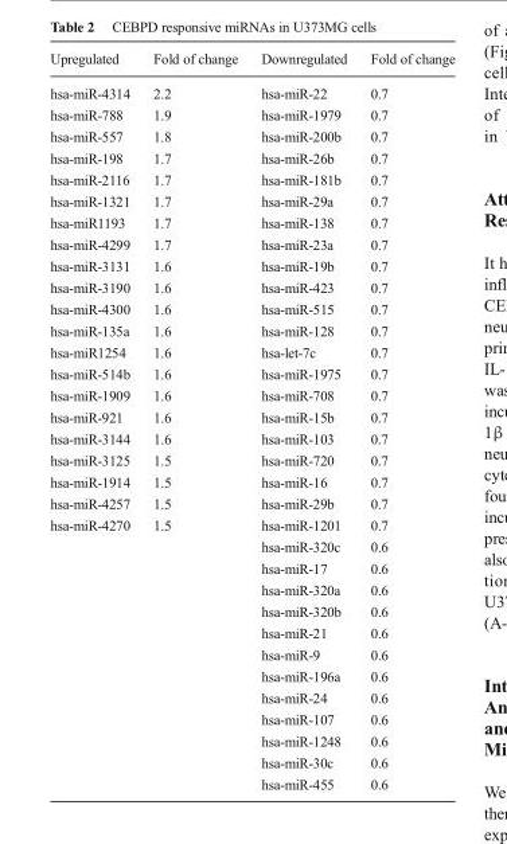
<table><thead><tr><td>Upregulated</td><td>Fold of change</td><td>Downregulated</td><td>Fold of change</td></tr></thead><tbody><tr><td>hsa-miR-4314</td><td>2.2</td><td>hsa-miR-22</td><td>0.7</td></tr><tr><td>hsa-miR-788</td><td>1.9</td><td>hsa-miR-1979</td><td>0.7</td></tr><tr><td>hsa-miR-557</td><td>1.8</td><td>hsa-miR-200b</td><td>0.7</td></tr><tr><td>hsa-miR-198</td><td>1.7</td><td>hsa-miR-26b</td><td>0.7</td></tr><tr><td>hsa-miR-2116</td><td>1.7</td><td>hsa-miR-181b</td><td>0.7</td></tr><tr><td>hsa-miR-1321</td><td>1.7</td><td>hsa-miR-29a</td><td>0.7</td></tr><tr><td>hsa-miR1193</td><td>1.7</td><td>hsa-miR-138</td><td>0.7</td></tr><tr><td>hsa-miR-4299</td><td>1.7</td><td>hsa-miR-23a</td><td>0.7</td></tr><tr><td>hsa-miR-3131</td><td>1.6</td><td>hsa-miR-19b</td><td>0.7</td></tr><tr><td>hsa-miR-3190</td><td>1.6</td><td>hsa-miR-423</td><td>0.7</td></tr><tr><td>hsa-miR-4300</td><td>1.6</td><td>hsa-miR-515</td><td>0.7</td></tr><tr><td>hsa-miR-135a</td><td>1.6</td><td>hsa-miR-128</td><td>0.7</td></tr><tr><td>hsa-miR1254</td><td>1.6</td><td>hsa-let-7c</td><td>0.7</td></tr><tr><td>hsa-miR-514b</td><td>1.6</td><td>hsa-miR-1975</td><td>0.7</td></tr><tr><td>hsa-miR-1909</td><td>1.6</td><td>hsa-miR-708</td><td>0.7</td></tr><tr><td>hsa-miR-921</td><td>1.6</td><td>hsa-miR-15b</td><td>0.7</td></tr><tr><td>hsa-miR-3144</td><td>1.6</td><td>hsa-miR-103</td><td>0.7</td></tr><tr><td>hsa-miR-3125</td><td>1.5</td><td>hsa-miR-720</td><td>0.7</td></tr><tr><td>hsa-miR-1914</td><td>1.5</td><td>hsa-miR-16</td><td>0.7</td></tr><tr><td>hsa-miR-4257</td><td>1.5</td><td>hsa-miR-29b</td><td>0.7</td></tr><tr><td rowspan="13">hsa-miR-4270</td><td>1.5</td><td>hsa-miR-1201</td><td>0.7</td></tr><tr><td></td><td>hsa-miR-320c</td><td>0.6</td></tr><tr><td></td><td>hsa-miR-17</td><td>0.6</td></tr><tr><td></td><td>hsa-miR-320a</td><td>0.6</td></tr><tr><td></td><td>hsa-miR-320b</td><td>0.6</td></tr><tr><td></td><td>hsa-miR-21</td><td>0.6</td></tr><tr><td></td><td>hsa-miR-9</td><td>0.6</td></tr><tr><td></td><td>hsa-miR-196a</td><td>0.6</td></tr><tr><td></td><td>hsa-miR-24</td><td>0.6</td></tr><tr><td></td><td>hsa-miR-107</td><td>0.6</td></tr><tr><td></td><td>hsa-miR-1248</td><td>0.6</td></tr><tr><td></td><td>hsa-miR-30c</td><td>0.6</td></tr><tr><td></td><td>hsa-miR-455</td><td>0.6</td></tr></tbody></table>